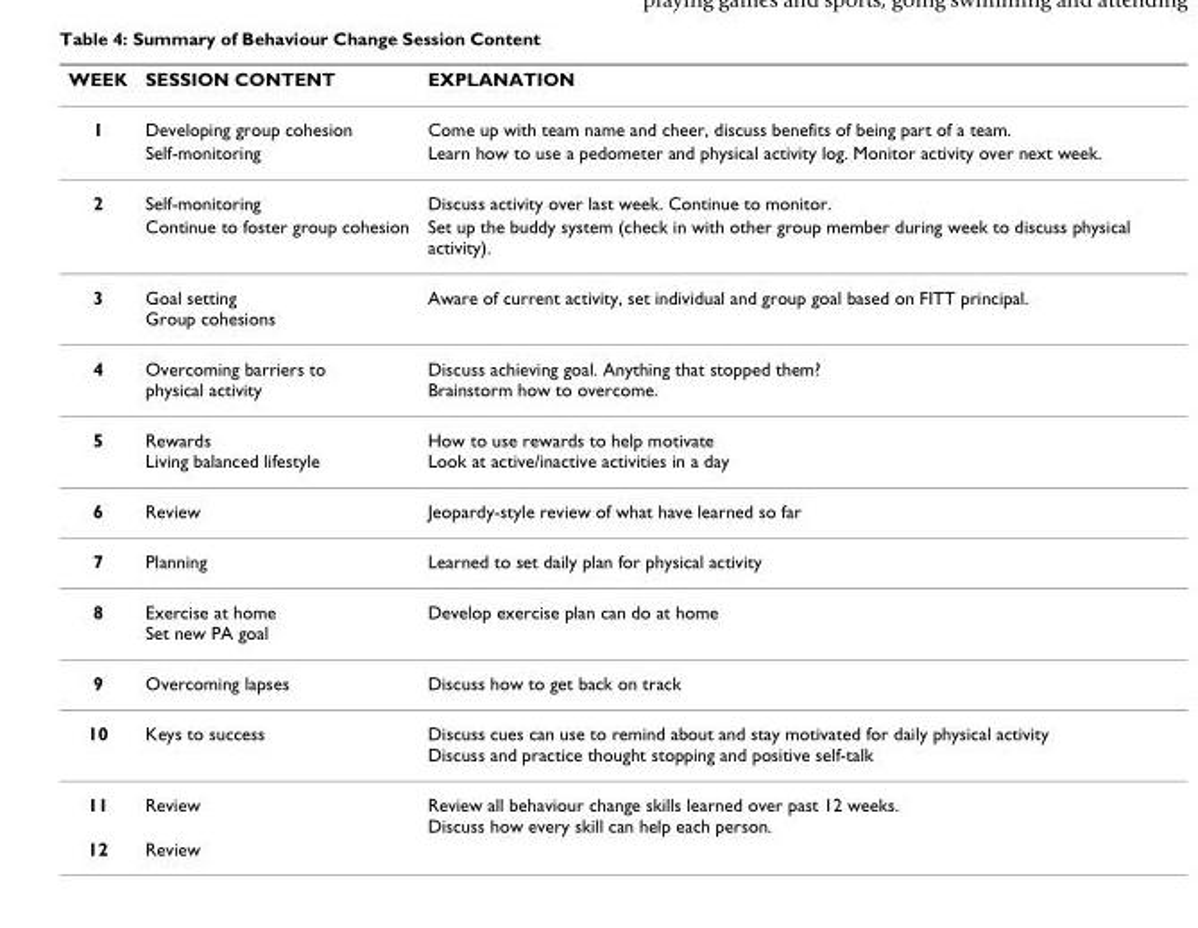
<table><thead><tr><td>WEEK</td><td>SESSION CONTENT</td><td>EXPLANATION</td></tr></thead><tbody><tr><td rowspan="2">1</td><td>Developing group cohesion</td><td>Come up with team name and cheer, discuss benefits of being part of a team.</td></tr><tr><td>Self-monitoring</td><td>Learn how to use a pedometer and physical activity log. Monitor activity over next week.</td></tr><tr><td rowspan="2">2</td><td>Self-monitoring</td><td>Discuss activity over last week. Continue to monitor.</td></tr><tr><td>Continue to foster group cohesion</td><td>Set up the buddy system (check in with other group member during week to discuss physical activity).</td></tr><tr><td>3</td><td>Goal setting Group cohesions</td><td>Aware of current activity, set individual and group goal based on FITT principal.</td></tr><tr><td>4</td><td>Overcoming barriers to physical activity</td><td>Discuss achieving goal. Anything that stopped them? Brainstorm how to overcome.</td></tr><tr><td>5</td><td>Rewards Living balanced lifestyle</td><td>How to use rewards to help motivate Look at active/inactive activities in a day</td></tr><tr><td>6</td><td>Review</td><td>Jeopardy-style review of what have learned so far</td></tr><tr><td>7</td><td>Planning</td><td>Learned to set daily plan for physical activity</td></tr><tr><td>8</td><td>Exercise at home Set new PA goal</td><td>Develop exercise plan can do at home</td></tr><tr><td>9</td><td>Overcoming lapses</td><td>Discuss how to get back on track</td></tr><tr><td>10</td><td>Keys to success</td><td>Discuss cues can use to remind about and stay motivated for daily physical activity Discuss and practice thought stopping and positive self-talk</td></tr><tr><td>11</td><td>Review</td><td>Review all behaviour change skills learned over past 12 weeks. Discuss how every skill can help each person.</td></tr><tr><td>12</td><td>Review</td><td></td></tr></tbody></table>